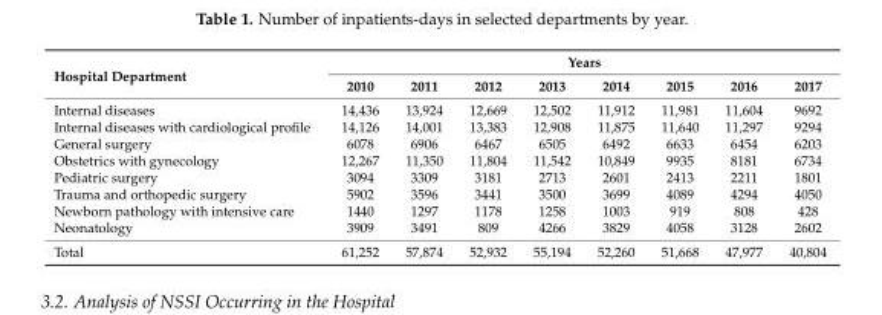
<table><thead><tr><td rowspan="2">Hospital Department</td><td colspan="8">Years</td></tr><tr><td>2010</td><td>2011</td><td>2012</td><td>2013</td><td>2014</td><td>2015</td><td>2016</td><td>2017</td></tr></thead><tbody><tr><td>Internal diseases</td><td>14,436</td><td>13,924</td><td>12,669</td><td>12,502</td><td>11,912</td><td>11,981</td><td>11,604</td><td>9692</td></tr><tr><td>Internal diseases with cardiological profile</td><td>14,126</td><td>14,001</td><td>13,383</td><td>12,908</td><td>11,875</td><td>11,640</td><td>11,297</td><td>9294</td></tr><tr><td>General surgery</td><td>6078</td><td>6906</td><td>6467</td><td>6505</td><td>6492</td><td>6633</td><td>6454</td><td>6203</td></tr><tr><td>Obstetrics with gynecology</td><td>12,267</td><td>11,350</td><td>11,804</td><td>11,542</td><td>10,849</td><td>9935</td><td>8181</td><td>6734</td></tr><tr><td>Pediatric surgery</td><td>3094</td><td>3309</td><td>3181</td><td>2713</td><td>2601</td><td>2413</td><td>2211</td><td>1801</td></tr><tr><td>Trauma and orthopedic surgery</td><td>5902</td><td>3596</td><td>3441</td><td>3500</td><td>3699</td><td>4089</td><td>4294</td><td>4050</td></tr><tr><td>Newborn pathology with intensive care</td><td>1440</td><td>1297</td><td>1178</td><td>1258</td><td>1003</td><td>919</td><td>808</td><td>428</td></tr><tr><td>Neonatology</td><td>3909</td><td>3491</td><td>809</td><td>4266</td><td>3829</td><td>4058</td><td>3128</td><td>2602</td></tr><tr><td>Total</td><td>61,252</td><td>57,874</td><td>52,932</td><td>55,194</td><td>52,260</td><td>51,668</td><td>47,977</td><td>40,804</td></tr></tbody></table>